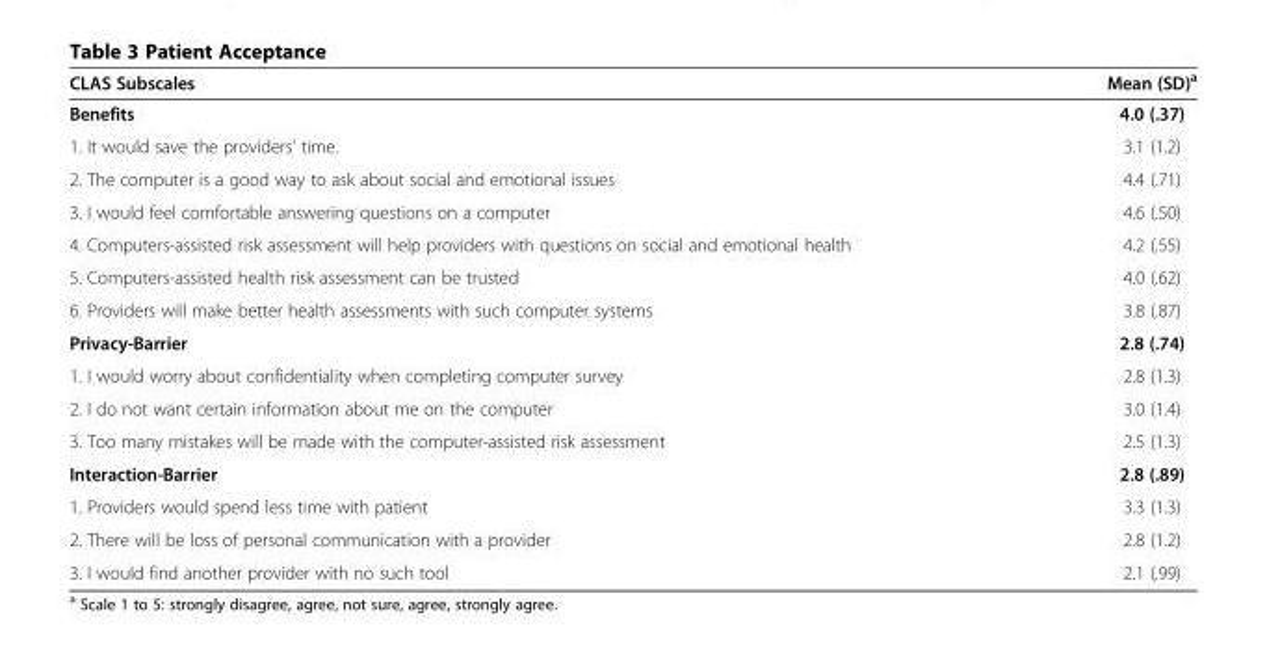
<table><thead><tr><td>CLAS Subscales</td><td>Mean (SD)<sup>a</sup></td></tr></thead><tbody><tr><td>Benefits</td><td>4.0 (.37)</td></tr><tr><td>1. It would save the providers&#x27; time.</td><td>3.1 (1.2)</td></tr><tr><td>2. The computer is a good way to ask about social and emotional issues</td><td>4.4 (.71)</td></tr><tr><td>3. I would feel comfortable answering questions on a computer</td><td>4.6 (.50)</td></tr><tr><td>4. Computers-assisted risk assessment will help providers with questions on social and emotional health</td><td>4.2 (.55)</td></tr><tr><td>5. Computers-assisted health risk assessment can be trusted</td><td>4.0 (.62)</td></tr><tr><td>6. Providers will make better health assessments with such computer systems</td><td>3.8 (.87)</td></tr><tr><td>Privacy-Barrier</td><td>2.8 (.74)</td></tr><tr><td>1. I would worry about confidentiality when completing computer survey</td><td>2.8 (1.3)</td></tr><tr><td>2. I do not want certain information about me on the computer</td><td>3.0 (1.4)</td></tr><tr><td>3. Too many mistakes will be made with the computer-assisted risk assessment</td><td>2.5 (1.3)</td></tr><tr><td>Interaction-Barrier</td><td>2.8 (.89)</td></tr><tr><td>1. Providers would spend less time with patient</td><td>3.3 (1.3)</td></tr><tr><td>2. There will be loss of personal communication with a provider</td><td>2.8 (1.2)</td></tr><tr><td>3. I would find another provider with no such tool</td><td>2.1 (.99)</td></tr></tbody></table>